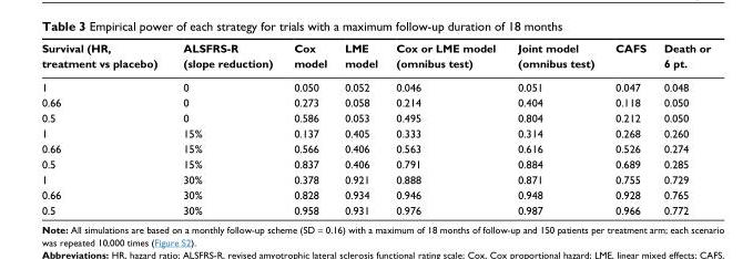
<table><thead><tr><td>Survival (HR, treatment vs placebo)</td><td>ALSFRS-R (slope reduction)</td><td>Cox model</td><td>LME model</td><td>Cox or LME model (omnibus test)</td><td>Joint model (omnibus test)</td><td>CAFS</td><td>Death or 6 pt.</td></tr></thead><tbody><tr><td>1</td><td>0</td><td>0.050</td><td>0.052</td><td>0.046</td><td>0.051</td><td>0.047</td><td>0.048</td></tr><tr><td>0.66</td><td>0</td><td>0.273</td><td>0.058</td><td>0.214</td><td>0.404</td><td>0.118</td><td>0.050</td></tr><tr><td>0.5</td><td>0</td><td>0.586</td><td>0.053</td><td>0.495</td><td>0.804</td><td>0.212</td><td>0.050</td></tr><tr><td>1</td><td>15%</td><td>0.137</td><td>0.405</td><td>0.333</td><td>0.314</td><td>0.268</td><td>0.260</td></tr><tr><td>0.66</td><td>15%</td><td>0.566</td><td>0.406</td><td>0.563</td><td>0.616</td><td>0.526</td><td>0.274</td></tr><tr><td>0.5</td><td>15%</td><td>0.837</td><td>0.406</td><td>0.791</td><td>0.884</td><td>0.689</td><td>0.285</td></tr><tr><td>1</td><td>30%</td><td>0.378</td><td>0.921</td><td>0.888</td><td>0.871</td><td>0.755</td><td>0.729</td></tr><tr><td>0.66</td><td>30%</td><td>0.828</td><td>0.934</td><td>0.946</td><td>0.948</td><td>0.928</td><td>0.765</td></tr><tr><td>0.5</td><td>30%</td><td>0.958</td><td>0.931</td><td>0.976</td><td>0.987</td><td>0.966</td><td>0.772</td></tr></tbody></table>